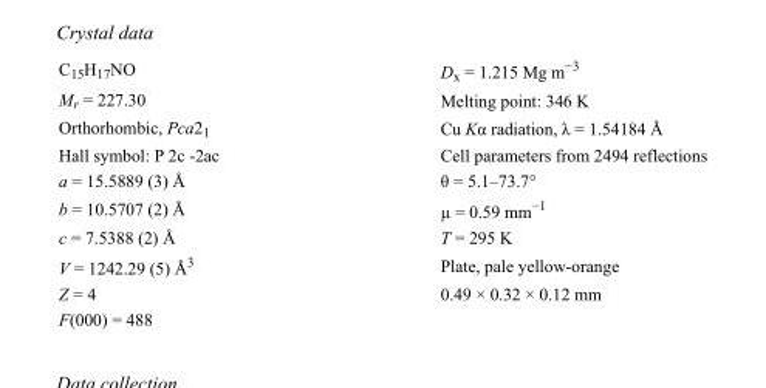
<table><tbody><tr><td>C<sub>15</sub>H<sub>17</sub>NO</td><td>D<sub>x</sub> = 1.215 Mg m<sup>−3</sup></td></tr><tr><td>M<sub>r</sub> = 227.30</td><td>Melting point: 346 K</td></tr><tr><td>Orthorhombic, Pca2<sub>1</sub></td><td>Cu Kα radiation, λ = 1.54184 Å</td></tr><tr><td>Hall symbol: P 2c -2ac</td><td>Cell parameters from 2494 reflections</td></tr><tr><td>a = 15.5889 (3) Å</td><td>θ = 5.1–73.7°</td></tr><tr><td>b = 10.5707 (2) Å</td><td>µ = 0.59 mm<sup>−1</sup></td></tr><tr><td>c = 7.5388 (2) Å</td><td>T = 295 K</td></tr><tr><td>V = 1242.29 (5) Å<sup>3</sup></td><td>Plate, pale yellow-orange</td></tr><tr><td>Z = 4</td><td>0.49 × 0.32 × 0.12 mm</td></tr><tr><td>F(000) = 488</td><td></td></tr></tbody></table>